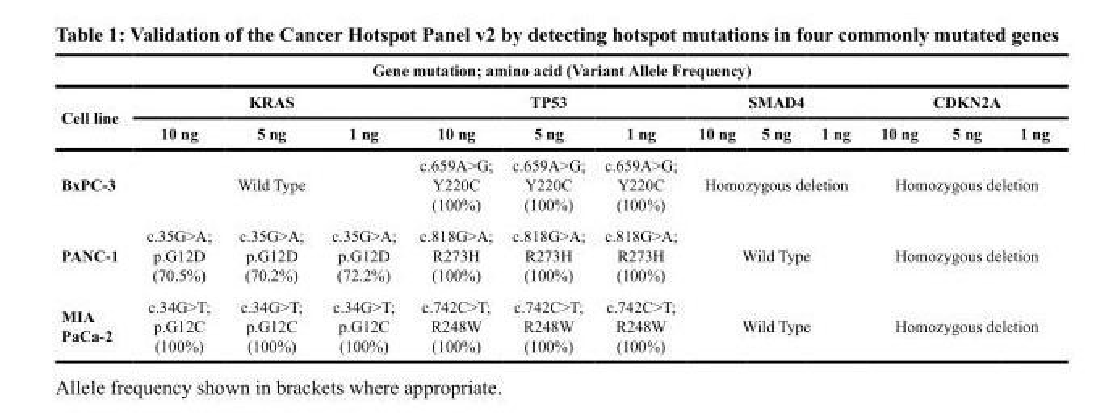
<table><thead><tr><td colspan="13">Gene mutation; amino acid (Variant Allele Frequency)</td></tr><tr><td rowspan="2">Cell line</td><td colspan="3">KRAS</td><td colspan="3">TP53</td><td colspan="3">SMAD4</td><td colspan="3">CDKN2A</td></tr><tr><td>10 ng</td><td>5 ng</td><td>1 ng</td><td>10 ng</td><td>5 ng</td><td>1 ng</td><td>10 ng</td><td>5 ng</td><td>1 ng</td><td>10 ng</td><td>5 ng</td><td>1 ng</td></tr></thead><tbody><tr><td>BxPC-3</td><td colspan="3">Wild Type</td><td>c.659A&gt;G; Y220C (100%)</td><td>c.659A&gt;G; Y220C (100%)</td><td>c.659A&gt;G; Y220C (100%)</td><td colspan="3">Homozygous deletion</td><td colspan="3">Homozygous deletion</td></tr><tr><td>PANC-1</td><td>c.35G&gt;A; p.G12D (70.5%)</td><td>c.35G&gt;A; p.G12D (70.2%)</td><td>c.35G&gt;A; p.G12D (72.2%)</td><td>c.818G&gt;A; R273H (100%)</td><td>c.818G&gt;A; R273H (100%)</td><td>c.818G&gt;A; R273H (100%)</td><td colspan="3">Wild Type</td><td colspan="3">Homozygous deletion</td></tr><tr><td>MIA PaCa-2</td><td>c.34G&gt;T; p.G12C (100%)</td><td>c.34G&gt;T; p.G12C (100%)</td><td>c.34G&gt;T; p.G12C (100%)</td><td>c.742C&gt;T; R248W (100%)</td><td>c.742C&gt;T; R248W (100%)</td><td>c.742C&gt;T; R248W (100%)</td><td colspan="3">Wild Type</td><td colspan="3">Homozygous deletion</td></tr></tbody></table>